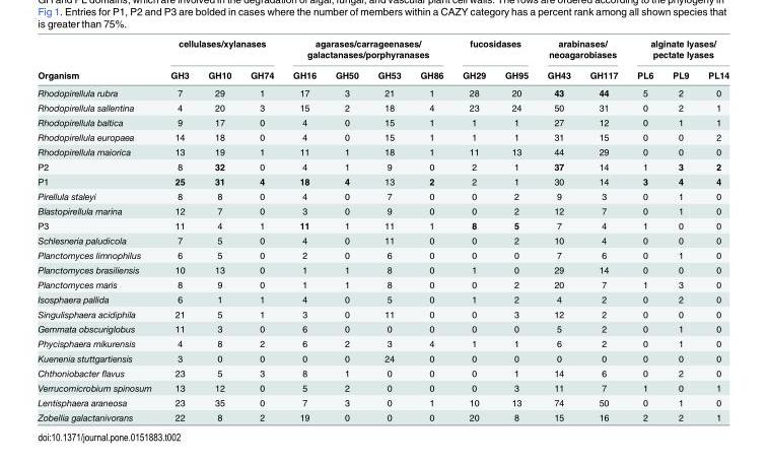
<table><thead><tr><td rowspan="2">Organism</td><td colspan="3">cellulases/xylanases</td><td colspan="4">agarases/carrageenases/ galactanases/porphyranases</td><td colspan="2">fucosidases</td><td colspan="2">arabinases/ neoagarobiases</td><td colspan="3">alginate lyases/ pectate lyases</td></tr><tr><td>GH3</td><td>GH10</td><td>GH74</td><td>GH16</td><td>GH50</td><td>GH53</td><td>GH86</td><td>GH29</td><td>GH95</td><td>GH43</td><td>GH117</td><td>PL6</td><td>PL9</td><td>PL14</td></tr></thead><tbody><tr><td>Rhodopirellula rubra</td><td>7</td><td>29</td><td>1</td><td>17</td><td>3</td><td>21</td><td>1</td><td>28</td><td>20</td><td>43</td><td>44</td><td>5</td><td>2</td><td>0</td></tr><tr><td>Rhodopirellula sallentina</td><td>4</td><td>20</td><td>3</td><td>15</td><td>2</td><td>18</td><td>4</td><td>23</td><td>24</td><td>50</td><td>31</td><td>0</td><td>2</td><td>1</td></tr><tr><td>Rhodopirellula baltica</td><td>9</td><td>17</td><td>0</td><td>4</td><td>0</td><td>15</td><td>1</td><td>1</td><td>1</td><td>27</td><td>12</td><td>0</td><td>1</td><td>1</td></tr><tr><td>Rhodopirellula europaea</td><td>14</td><td>18</td><td>0</td><td>4</td><td>0</td><td>15</td><td>1</td><td>1</td><td>1</td><td>31</td><td>15</td><td>0</td><td>0</td><td>2</td></tr><tr><td>Rhodopirellula maiorica</td><td>13</td><td>19</td><td>1</td><td>11</td><td>1</td><td>18</td><td>1</td><td>11</td><td>13</td><td>44</td><td>29</td><td>0</td><td>0</td><td>0</td></tr><tr><td>P2</td><td>8</td><td>32</td><td>0</td><td>4</td><td>1</td><td>9</td><td>0</td><td>2</td><td>1</td><td>37</td><td>14</td><td>1</td><td>3</td><td>2</td></tr><tr><td>P1</td><td>25</td><td>31</td><td>4</td><td>18</td><td>4</td><td>13</td><td>2</td><td>2</td><td>1</td><td>30</td><td>14</td><td>3</td><td>4</td><td>4</td></tr><tr><td>Pirellula staleyi</td><td>8</td><td>8</td><td>0</td><td>4</td><td>0</td><td>7</td><td>0</td><td>0</td><td>2</td><td>9</td><td>3</td><td>0</td><td>1</td><td>0</td></tr><tr><td>Blastopirellula marina</td><td>12</td><td>7</td><td>0</td><td>3</td><td>0</td><td>9</td><td>0</td><td>0</td><td>2</td><td>12</td><td>7</td><td>0</td><td>1</td><td>0</td></tr><tr><td>P3</td><td>11</td><td>4</td><td>1</td><td>11</td><td>1</td><td>11</td><td>1</td><td>8</td><td>5</td><td>7</td><td>4</td><td>1</td><td>0</td><td>0</td></tr><tr><td>Schlesneria paludicola</td><td>7</td><td>5</td><td>0</td><td>4</td><td>0</td><td>11</td><td>0</td><td>0</td><td>2</td><td>10</td><td>4</td><td>0</td><td>0</td><td>0</td></tr><tr><td>Planctomyces limnophilus</td><td>6</td><td>5</td><td>0</td><td>2</td><td>0</td><td>6</td><td>0</td><td>0</td><td>0</td><td>7</td><td>6</td><td>0</td><td>1</td><td>0</td></tr><tr><td>Planctomyces brasiliensis</td><td>10</td><td>13</td><td>0</td><td>1</td><td>1</td><td>8</td><td>0</td><td>1</td><td>0</td><td>29</td><td>14</td><td>0</td><td>0</td><td>0</td></tr><tr><td>Planctomyces maris</td><td>8</td><td>9</td><td>0</td><td>1</td><td>1</td><td>8</td><td>0</td><td>0</td><td>2</td><td>20</td><td>7</td><td>1</td><td>3</td><td>0</td></tr><tr><td>Isosphaera pallida</td><td>6</td><td>1</td><td>1</td><td>4</td><td>0</td><td>5</td><td>0</td><td>1</td><td>2</td><td>4</td><td>2</td><td>0</td><td>2</td><td>0</td></tr><tr><td>Singulisphaera acidiphila</td><td>21</td><td>5</td><td>1</td><td>3</td><td>0</td><td>11</td><td>0</td><td>0</td><td>3</td><td>12</td><td>2</td><td>0</td><td>0</td><td>0</td></tr><tr><td>Gemmata obscuriglobus</td><td>11</td><td>3</td><td>0</td><td>6</td><td>0</td><td>0</td><td>0</td><td>0</td><td>0</td><td>5</td><td>2</td><td>0</td><td>1</td><td>0</td></tr><tr><td>Phycisphaera mikurensis</td><td>4</td><td>8</td><td>2</td><td>6</td><td>2</td><td>3</td><td>4</td><td>1</td><td>1</td><td>6</td><td>2</td><td>0</td><td>1</td><td>0</td></tr><tr><td>Kuenenia stuttgartiensis</td><td>3</td><td>0</td><td>0</td><td>0</td><td>0</td><td>24</td><td>0</td><td>0</td><td>0</td><td>0</td><td>0</td><td>0</td><td>0</td><td>0</td></tr><tr><td>Chthoniobacter flavus</td><td>23</td><td>5</td><td>3</td><td>8</td><td>1</td><td>0</td><td>0</td><td>0</td><td>1</td><td>14</td><td>6</td><td>0</td><td>2</td><td>0</td></tr><tr><td>Verrucomicrobium spinosum</td><td>13</td><td>12</td><td>0</td><td>5</td><td>2</td><td>0</td><td>0</td><td>0</td><td>3</td><td>11</td><td>7</td><td>1</td><td>0</td><td>1</td></tr><tr><td>Lentisphaera araneosa</td><td>23</td><td>35</td><td>0</td><td>7</td><td>3</td><td>0</td><td>1</td><td>10</td><td>13</td><td>74</td><td>50</td><td>0</td><td>1</td><td>0</td></tr><tr><td>Zobellia galactanivorans</td><td>22</td><td>8</td><td>2</td><td>19</td><td>0</td><td>0</td><td>0</td><td>20</td><td>8</td><td>15</td><td>16</td><td>2</td><td>2</td><td>1</td></tr></tbody></table>